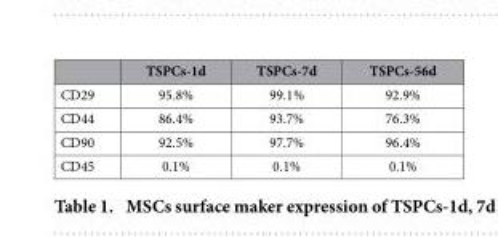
<table><thead><tr><td></td><td>TSPCs-1d</td><td>TSPCs-7d</td><td>TSPCs-56d</td></tr></thead><tbody><tr><td>CD29</td><td>95.8%</td><td>99.1%</td><td>92.9%</td></tr><tr><td>CD44</td><td>86.4%</td><td>93.7%</td><td>76.3%</td></tr><tr><td>CD90</td><td>92.5%</td><td>97.7%</td><td>96.4%</td></tr><tr><td>CD45</td><td>0.1%</td><td>0.1%</td><td>0.1%</td></tr></tbody></table>